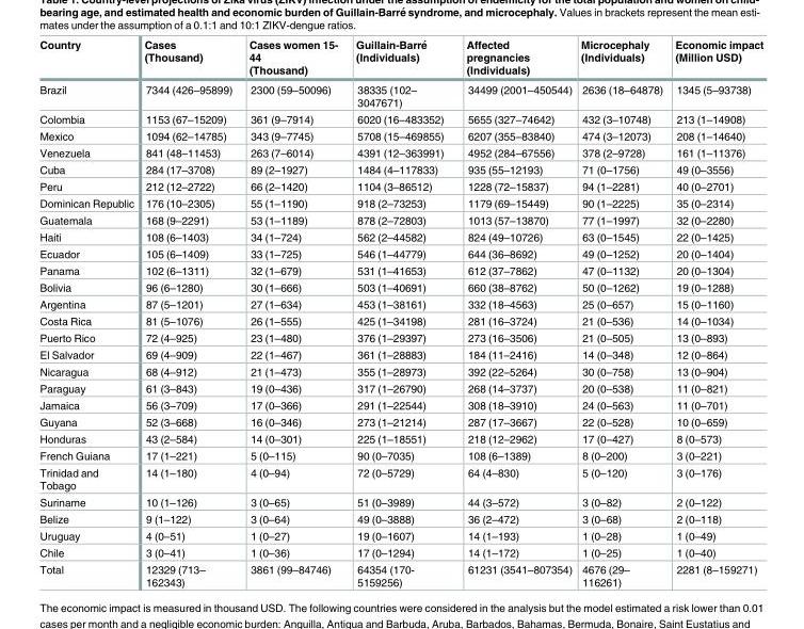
<table><thead><tr><td>Country</td><td>Cases (Thousand)</td><td>Cases women 15- 44 (Thousand)</td><td>Guillain-Barre´ (Individuals)</td><td>Affected pregnancies (Individuals)</td><td>Microcephaly (Individuals)</td><td>Economic impact (Million USD)</td></tr></thead><tbody><tr><td>Brazil</td><td>7344 (426–95899)</td><td>2300 (59–50096)</td><td>38335 (102– 3047671)</td><td>34499 (2001–450544)</td><td>2636 (18–64878)</td><td>1345 (5–93738)</td></tr><tr><td>Colombia</td><td>1153 (67–15209)</td><td>361 (9–7914)</td><td>6020 (16–483352)</td><td>5655 (327–74642)</td><td>432 (3–10748)</td><td>213 (1–14908)</td></tr><tr><td>Mexico</td><td>1094 (62–14785)</td><td>343 (9–7745)</td><td>5708 (15–469855)</td><td>6207 (355–83840)</td><td>474 (3–12073)</td><td>208 (1–14640)</td></tr><tr><td>Venezuela</td><td>841 (48–11453)</td><td>263 (7–6014)</td><td>4391 (12–363991)</td><td>4952 (284–67556)</td><td>378 (2–9728)</td><td>161 (1–11376)</td></tr><tr><td>Cuba</td><td>284 (17–3708)</td><td>89 (2–1927)</td><td>1484 (4–117833)</td><td>935 (55–12193)</td><td>71 (0–1756)</td><td>49 (0–3556)</td></tr><tr><td>Peru</td><td>212 (12–2722)</td><td>66 (2–1420)</td><td>1104 (3–86512)</td><td>1228 (72–15837)</td><td>94 (1–2281)</td><td>40 (0–2701)</td></tr><tr><td>Dominican Republic</td><td>176 (10–2305)</td><td>55 (1–1190)</td><td>918 (2–73253)</td><td>1179 (69–15449)</td><td>90 (1–2225)</td><td>35 (0–2314)</td></tr><tr><td>Guatemala</td><td>168 (9–2291)</td><td>53 (1–1189)</td><td>878 (2–72803)</td><td>1013 (57–13870)</td><td>77 (1–1997)</td><td>32 (0–2280)</td></tr><tr><td>Haiti</td><td>108 (6–1403)</td><td>34 (1–724)</td><td>562 (2–44582)</td><td>824 (49–10726)</td><td>63 (0–1545)</td><td>22 (0–1425)</td></tr><tr><td>Ecuador</td><td>105 (6–1409)</td><td>33 (1–725)</td><td>546 (1–44779)</td><td>644 (36–8692)</td><td>49 (0–1252)</td><td>20 (0–1404)</td></tr><tr><td>Panama</td><td>102 (6–1311)</td><td>32 (1–679)</td><td>531 (1–41653)</td><td>612 (37–7862)</td><td>47 (0–1132)</td><td>20 (0–1304)</td></tr><tr><td>Bolivia</td><td>96 (6–1280)</td><td>30 (1–666)</td><td>503 (1–40691)</td><td>660 (38–8762)</td><td>50 (0–1262)</td><td>19 (0–1288)</td></tr><tr><td>Argentina</td><td>87 (5–1201)</td><td>27 (1–634)</td><td>453 (1–38161)</td><td>332 (18–4563)</td><td>25 (0–657)</td><td>15 (0–1160)</td></tr><tr><td>Costa Rica</td><td>81 (5–1076)</td><td>26 (1–555)</td><td>425 (1–34198)</td><td>281 (16–3724)</td><td>21 (0–536)</td><td>14 (0–1034)</td></tr><tr><td>Puerto Rico</td><td>72 (4–925)</td><td>23 (1–480)</td><td>376 (1–29397)</td><td>273 (16–3506)</td><td>21 (0–505)</td><td>13 (0–893)</td></tr><tr><td>El Salvador</td><td>69 (4–909)</td><td>22 (1–467)</td><td>361 (1–28883)</td><td>184 (11–2416)</td><td>14 (0–348)</td><td>12 (0–864)</td></tr><tr><td>Nicaragua</td><td>68 (4–912)</td><td>21 (1–473)</td><td>355 (1–28973)</td><td>392 (22–5264)</td><td>30 (0–758)</td><td>13 (0–904)</td></tr><tr><td>Paraguay</td><td>61 (3–843)</td><td>19 (0–436)</td><td>317 (1–26790)</td><td>268 (14–3737)</td><td>20 (0–538)</td><td>11 (0–821)</td></tr><tr><td>Jamaica</td><td>56 (3–709)</td><td>17 (0–366)</td><td>291 (1–22544)</td><td>308 (18–3910)</td><td>24 (0–563)</td><td>11 (0–701)</td></tr><tr><td>Guyana</td><td>52 (3–668)</td><td>16 (0–346)</td><td>273 (1–21214)</td><td>287 (17–3667)</td><td>22 (0–528)</td><td>10 (0–659)</td></tr><tr><td>Honduras</td><td>43 (2–584)</td><td>14 (0–301)</td><td>225 (1–18551)</td><td>218 (12–2962)</td><td>17 (0–427)</td><td>8 (0–573)</td></tr><tr><td>French Guiana</td><td>17 (1–221)</td><td>5 (0–115)</td><td>90 (0–7035)</td><td>108 (6–1389)</td><td>8 (0–200)</td><td>3 (0–221)</td></tr><tr><td>Trinidad and Tobago</td><td>14 (1–180)</td><td>4 (0–94)</td><td>72 (0–5729)</td><td>64 (4–830)</td><td>5 (0–120)</td><td>3 (0–176)</td></tr><tr><td>Suriname</td><td>10 (1–126)</td><td>3 (0–65)</td><td>51 (0–3989)</td><td>44 (3–572)</td><td>3 (0–82)</td><td>2 (0–122)</td></tr><tr><td>Belize</td><td>9 (1–122)</td><td>3 (0–64)</td><td>49 (0–3888)</td><td>36 (2–472)</td><td>3 (0–68)</td><td>2 (0–118)</td></tr><tr><td>Uruguay</td><td>4 (0–51)</td><td>1 (0–27)</td><td>19 (0–1607)</td><td>14 (1–193)</td><td>1 (0–28)</td><td>1 (0–49)</td></tr><tr><td>Chile</td><td>3 (0–41)</td><td>1 (0–36)</td><td>17 (0–1294)</td><td>14 (1–172)</td><td>1 (0–25)</td><td>1 (0–40)</td></tr><tr><td>Total</td><td>12329 (713– 162343)</td><td>3861 (99–84746)</td><td>64354 (170- 5159256)</td><td>61231 (3541–807354)</td><td>4676 (29– 116261)</td><td>2281 (8–159271)</td></tr></tbody></table>